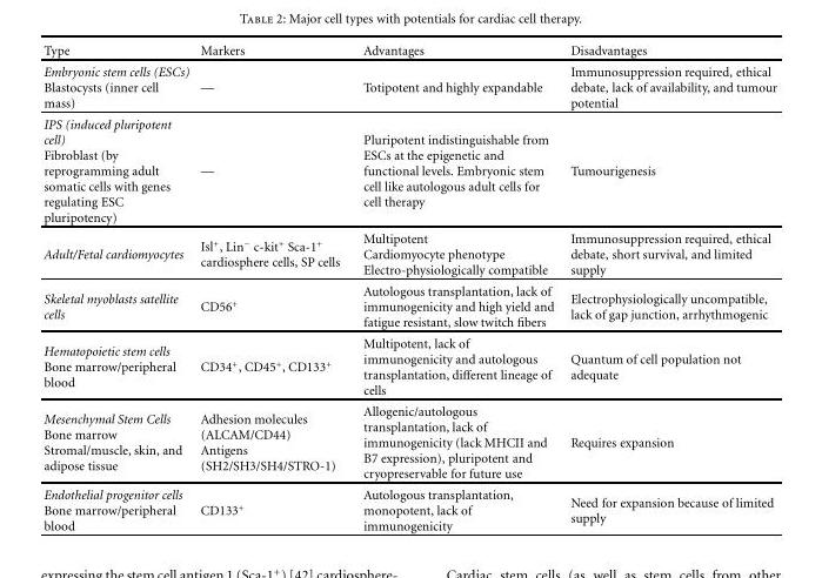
<table><thead><tr><td>Type</td><td>Markers</td><td>Advantages</td><td>Disadvantages</td></tr></thead><tbody><tr><td>Embryonic stem cells (ESCs) Blastocysts (inner cell mass)</td><td>—</td><td>Totipotent and highly expandable</td><td>Immunosuppression required, ethical debate, lack of availability, and tumour potential</td></tr><tr><td>IPS (induced pluripotent cell) Fibroblast (by reprogramming adult somatic cells with genes regulating ESC pluripotency)</td><td>—</td><td>Pluripotent indistinguishable from ESCs at the epigenetic and functional levels. Embryonic stem cell like autologous adult cells for cell therapy</td><td>Tumourigenesis</td></tr><tr><td>Adult/Fetal cardiomyocytes</td><td>Isl<sup>+</sup>, Lin<sup>−</sup> c-kit<sup>+</sup> Sca-1<sup>+</sup> cardiosphere cells, SP cells</td><td>Multipotent Cardiomyocyte phenotype Electro-physiologically compatible</td><td>Immunosuppression required, ethical debate, short survival, and limited supply</td></tr><tr><td>Skeletal myoblasts satellite cells</td><td>CD56<sup>+</sup></td><td>Autologous transplantation, lack of immunogenicity and high yield and fatigue resistant, slow twitch fibers</td><td>Electrophysiologically uncompatible, lack of gap junction, arrhythmogenic</td></tr><tr><td>Hematopoietic stem cells Bone marrow/peripheral blood</td><td>CD34<sup>+</sup>, CD45<sup>+</sup>, CD133<sup>+</sup></td><td>Multipotent, lack of immunogenicity and autologous transplantation, different lineage of cells</td><td>Quantum of cell population not adequate</td></tr><tr><td>Mesenchymal Stem Cells Bone marrow Stromal/muscle, skin, and adipose tissue</td><td>Adhesion molecules (ALCAM/CD44) Antigens (SH2/SH3/SH4/STRO-1)</td><td>Allogenic/autologous transplantation, lack of immunogenicity (lack MHCII and B7 expression), pluripotent and cryopreservable for future use</td><td>Requires expansion</td></tr><tr><td>Endothelial progenitor cells Bone marrow/peripheral blood</td><td>CD133<sup>+</sup></td><td>Autologous transplantation, monopotent, lack of immunogenicity</td><td>Need for expansion because of limited supply</td></tr></tbody></table>